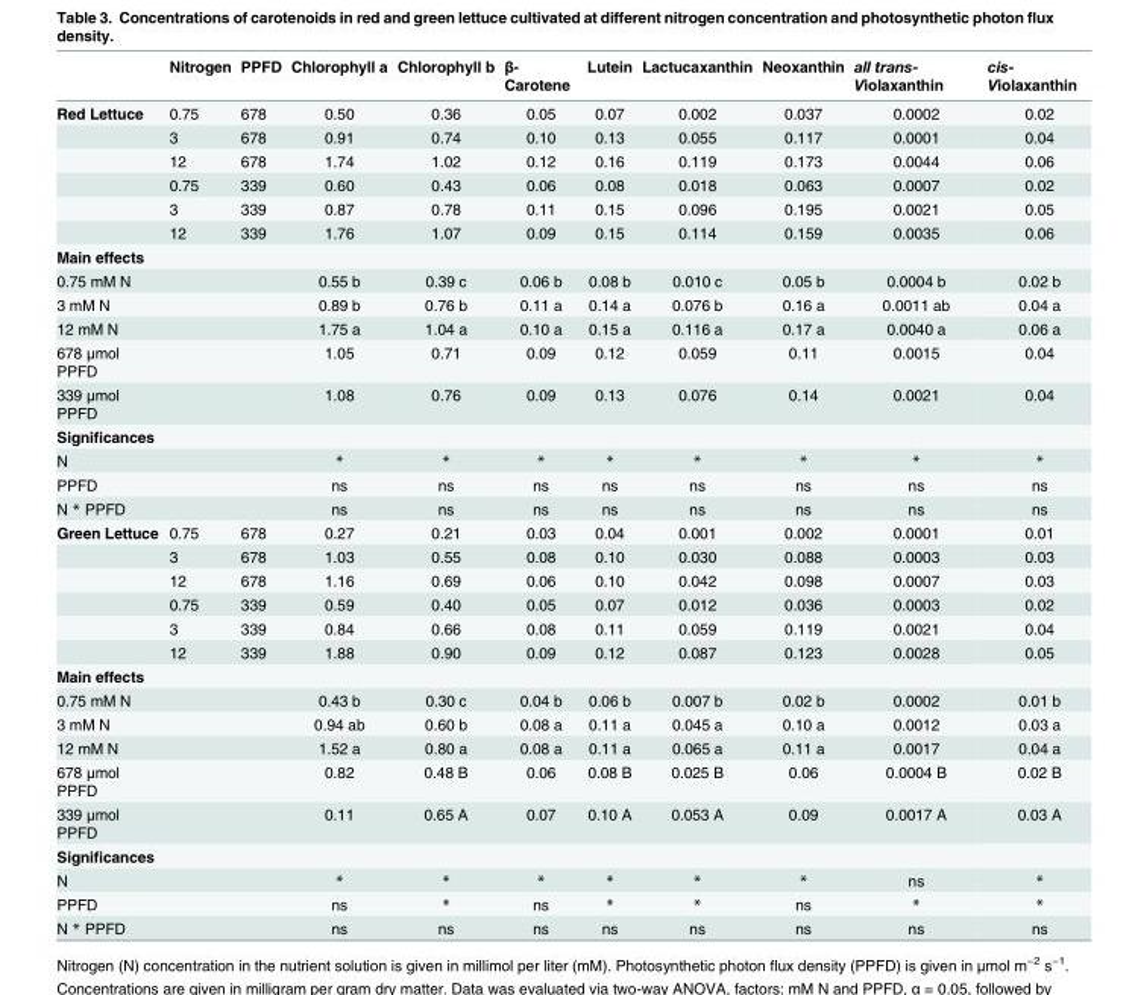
<table><thead><tr><td></td><td>Nitrogen</td><td>PPFD</td><td>Chlorophyll a</td><td>Chlorophyll b</td><td>β- Carotene</td><td>Lutein</td><td>Lactucaxanthin</td><td>Neoxanthin</td><td>all trans- Violaxanthin</td><td>cis- Violaxanthin</td></tr></thead><tbody><tr><td rowspan="6">Red Lettuce</td><td>0.75</td><td>678</td><td>0.50</td><td>0.36</td><td>0.05</td><td>0.07</td><td>0.002</td><td>0.037</td><td>0.0002</td><td>0.02</td></tr><tr><td>3</td><td>678</td><td>0.91</td><td>0.74</td><td>0.10</td><td>0.13</td><td>0.055</td><td>0.117</td><td>0.0001</td><td>0.04</td></tr><tr><td>12</td><td>678</td><td>1.74</td><td>1.02</td><td>0.12</td><td>0.16</td><td>0.119</td><td>0.173</td><td>0.0044</td><td>0.06</td></tr><tr><td>0.75</td><td>339</td><td>0.60</td><td>0.43</td><td>0.06</td><td>0.08</td><td>0.018</td><td>0.063</td><td>0.0007</td><td>0.02</td></tr><tr><td>3</td><td>339</td><td>0.87</td><td>0.78</td><td>0.11</td><td>0.15</td><td>0.096</td><td>0.195</td><td>0.0021</td><td>0.05</td></tr><tr><td>12</td><td>339</td><td>1.76</td><td>1.07</td><td>0.09</td><td>0.15</td><td>0.114</td><td>0.159</td><td>0.0035</td><td>0.06</td></tr><tr><td colspan="11">Main effects</td></tr><tr><td>0.75 mM N</td><td></td><td></td><td>0.55 b</td><td>0.39 c</td><td>0.06 b</td><td>0.08 b</td><td>0.010 c</td><td>0.05 b</td><td>0.0004 b</td><td>0.02 b</td></tr><tr><td>3 mM N</td><td></td><td></td><td>0.89 b</td><td>0.76 b</td><td>0.11 a</td><td>0.14 a</td><td>0.076 b</td><td>0.16 a</td><td>0.0011 ab</td><td>0.04 a</td></tr><tr><td>12 mM N</td><td></td><td></td><td>1.75 a</td><td>1.04 a</td><td>0.10 a</td><td>0.15 a</td><td>0.116 a</td><td>0.17 a</td><td>0.0040 a</td><td>0.06 a</td></tr><tr><td>678 μmol PPFD</td><td></td><td></td><td>1.05</td><td>0.71</td><td>0.09</td><td>0.12</td><td>0.059</td><td>0.11</td><td>0.0015</td><td>0.04</td></tr><tr><td>339 μmol PPFD</td><td></td><td></td><td>1.08</td><td>0.76</td><td>0.09</td><td>0.13</td><td>0.076</td><td>0.14</td><td>0.0021</td><td>0.04</td></tr><tr><td colspan="11">Significances</td></tr><tr><td>N</td><td></td><td></td><td>*</td><td>*</td><td>*</td><td>*</td><td>*</td><td>*</td><td>*</td><td>*</td></tr><tr><td>PPFD</td><td></td><td></td><td>ns</td><td>ns</td><td>ns</td><td>ns</td><td>ns</td><td>ns</td><td>ns</td><td>ns</td></tr><tr><td>N * PPFD</td><td></td><td></td><td>ns</td><td>ns</td><td>ns</td><td>ns</td><td>ns</td><td>ns</td><td>ns</td><td>ns</td></tr><tr><td rowspan="6">Green Lettuce</td><td>0.75</td><td>678</td><td>0.27</td><td>0.21</td><td>0.03</td><td>0.04</td><td>0.001</td><td>0.002</td><td>0.0001</td><td>0.01</td></tr><tr><td>3</td><td>678</td><td>1.03</td><td>0.55</td><td>0.08</td><td>0.10</td><td>0.030</td><td>0.088</td><td>0.0003</td><td>0.03</td></tr><tr><td>12</td><td>678</td><td>1.16</td><td>0.69</td><td>0.06</td><td>0.10</td><td>0.042</td><td>0.098</td><td>0.0007</td><td>0.03</td></tr><tr><td>0.75</td><td>339</td><td>0.59</td><td>0.40</td><td>0.05</td><td>0.07</td><td>0.012</td><td>0.036</td><td>0.0003</td><td>0.02</td></tr><tr><td>3</td><td>339</td><td>0.84</td><td>0.66</td><td>0.08</td><td>0.11</td><td>0.059</td><td>0.119</td><td>0.0021</td><td>0.04</td></tr><tr><td>12</td><td>339</td><td>1.88</td><td>0.90</td><td>0.09</td><td>0.12</td><td>0.087</td><td>0.123</td><td>0.0028</td><td>0.05</td></tr><tr><td colspan="11">Main effects</td></tr><tr><td>0.75 mM N</td><td></td><td></td><td>0.43 b</td><td>0.30 c</td><td>0.04 b</td><td>0.06 b</td><td>0.007 b</td><td>0.02 b</td><td>0.0002</td><td>0.01 b</td></tr><tr><td>3 mM N</td><td></td><td></td><td>0.94 ab</td><td>0.60 b</td><td>0.08 a</td><td>0.11 a</td><td>0.045 a</td><td>0.10 a</td><td>0.0012</td><td>0.03 a</td></tr><tr><td>12 mM N</td><td></td><td></td><td>1.52 a</td><td>0.80 a</td><td>0.08 a</td><td>0.11 a</td><td>0.065 a</td><td>0.11 a</td><td>0.0017</td><td>0.04 a</td></tr><tr><td>678 μmol PPFD</td><td></td><td></td><td>0.82</td><td>0.48 B</td><td>0.06</td><td>0.08 B</td><td>0.025 B</td><td>0.06</td><td>0.0004 B</td><td>0.02 B</td></tr><tr><td>339 μmol PPFD</td><td></td><td></td><td>0.11</td><td>0.65 A</td><td>0.07</td><td>0.10 A</td><td>0.053 A</td><td>0.09</td><td>0.0017 A</td><td>0.03 A</td></tr><tr><td colspan="11">Significances</td></tr><tr><td>N</td><td></td><td></td><td>*</td><td>*</td><td>*</td><td>*</td><td>*</td><td>*</td><td>ns</td><td>*</td></tr><tr><td>PPFD</td><td></td><td></td><td>ns</td><td>*</td><td>ns</td><td>*</td><td>*</td><td>ns</td><td>*</td><td>*</td></tr><tr><td>N * PPFD</td><td></td><td></td><td>ns</td><td>ns</td><td>ns</td><td>ns</td><td>ns</td><td>ns</td><td>ns</td><td>ns</td></tr></tbody></table>